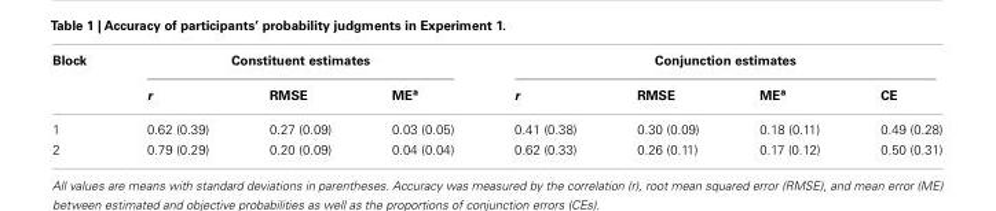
<table><thead><tr><td rowspan="2">Block</td><td colspan="3">Constituent estimates</td><td colspan="4">Conjunction estimates</td></tr><tr><td>r</td><td>RMSE</td><td>ME<sup>a</sup></td><td>r</td><td>RMSE</td><td>ME<sup>a</sup></td><td>CE</td></tr></thead><tbody><tr><td>1</td><td>0.62 (0.39)</td><td>0.27 (0.09)</td><td>0.03 (0.05)</td><td>0.41 (0.38)</td><td>0.30 (0.09)</td><td>0.18 (0.11)</td><td>0.49 (0.28)</td></tr><tr><td>2</td><td>0.79 (0.29)</td><td>0.20 (0.09)</td><td>0.04 (0.04)</td><td>0.62 (0.33)</td><td>0.26 (0.11)</td><td>0.17 (0.12)</td><td>0.50 (0.31)</td></tr></tbody></table>